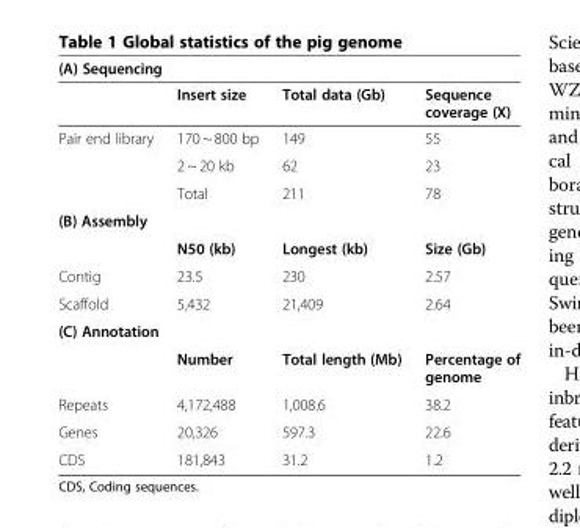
<table><tbody><tr><td colspan="4">(A) Sequencing</td></tr><tr><td></td><td>Insert size</td><td>Total data (Gb)</td><td>Sequence coverage (X)</td></tr><tr><td rowspan="3">Pair end library</td><td>170 ~ 800 bp</td><td>149</td><td>55</td></tr><tr><td>2 ~ 20 kb</td><td>62</td><td>23</td></tr><tr><td>Total</td><td>211</td><td>78</td></tr><tr><td colspan="4">(B) Assembly</td></tr><tr><td></td><td>N50 (kb)</td><td>Longest (kb)</td><td>Size (Gb)</td></tr><tr><td>Contig</td><td>23.5</td><td>230</td><td>2.57</td></tr><tr><td>Scaffold</td><td>5,432</td><td>21,409</td><td>2.64</td></tr><tr><td colspan="4">(C) Annotation</td></tr><tr><td></td><td>Number</td><td>Total length (Mb)</td><td>Percentage of genome</td></tr><tr><td>Repeats</td><td>4,172,488</td><td>1,008.6</td><td>38.2</td></tr><tr><td>Genes</td><td>20,326</td><td>597.3</td><td>22.6</td></tr><tr><td>CDS</td><td>181,843</td><td>31.2</td><td>1.2</td></tr></tbody></table>